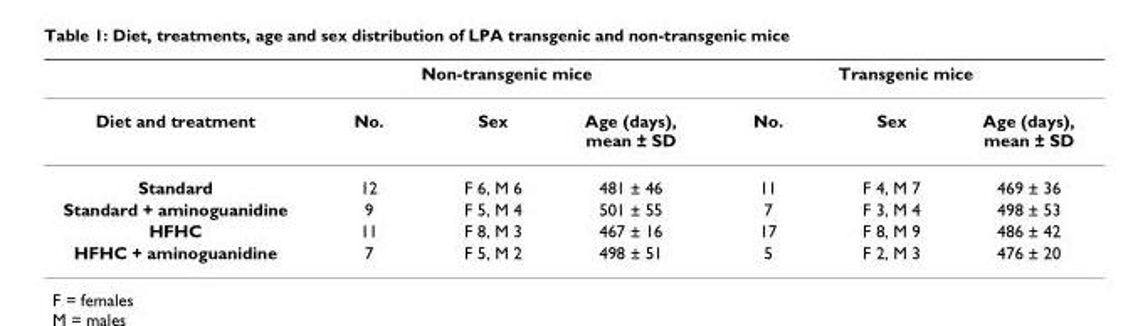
<table><thead><tr><td rowspan="2">Diet and treatment</td><td colspan="3">Non-transgenic mice</td><td colspan="3">Transgenic mice</td></tr><tr><td>No.</td><td>Sex</td><td>Age (days), mean ± SD</td><td>No.</td><td>Sex</td><td>Age (days), mean ± SD</td></tr></thead><tbody><tr><td>Standard</td><td>12</td><td>F 6, M 6</td><td>481 ± 46</td><td>11</td><td>F 4, M 7</td><td>469 ± 36</td></tr><tr><td>Standard + aminoguanidine</td><td>9</td><td>F 5, M 4</td><td>501 ± 55</td><td>7</td><td>F 3, M 4</td><td>498 ± 53</td></tr><tr><td>HFHC</td><td>11</td><td>F 8, M 3</td><td>467 ± 16</td><td>17</td><td>F 8, M 9</td><td>486 ± 42</td></tr><tr><td>HFHC + aminoguanidine</td><td>7</td><td>F 5, M 2</td><td>498 ± 51</td><td>5</td><td>F 2, M 3</td><td>476 ± 20</td></tr></tbody></table>